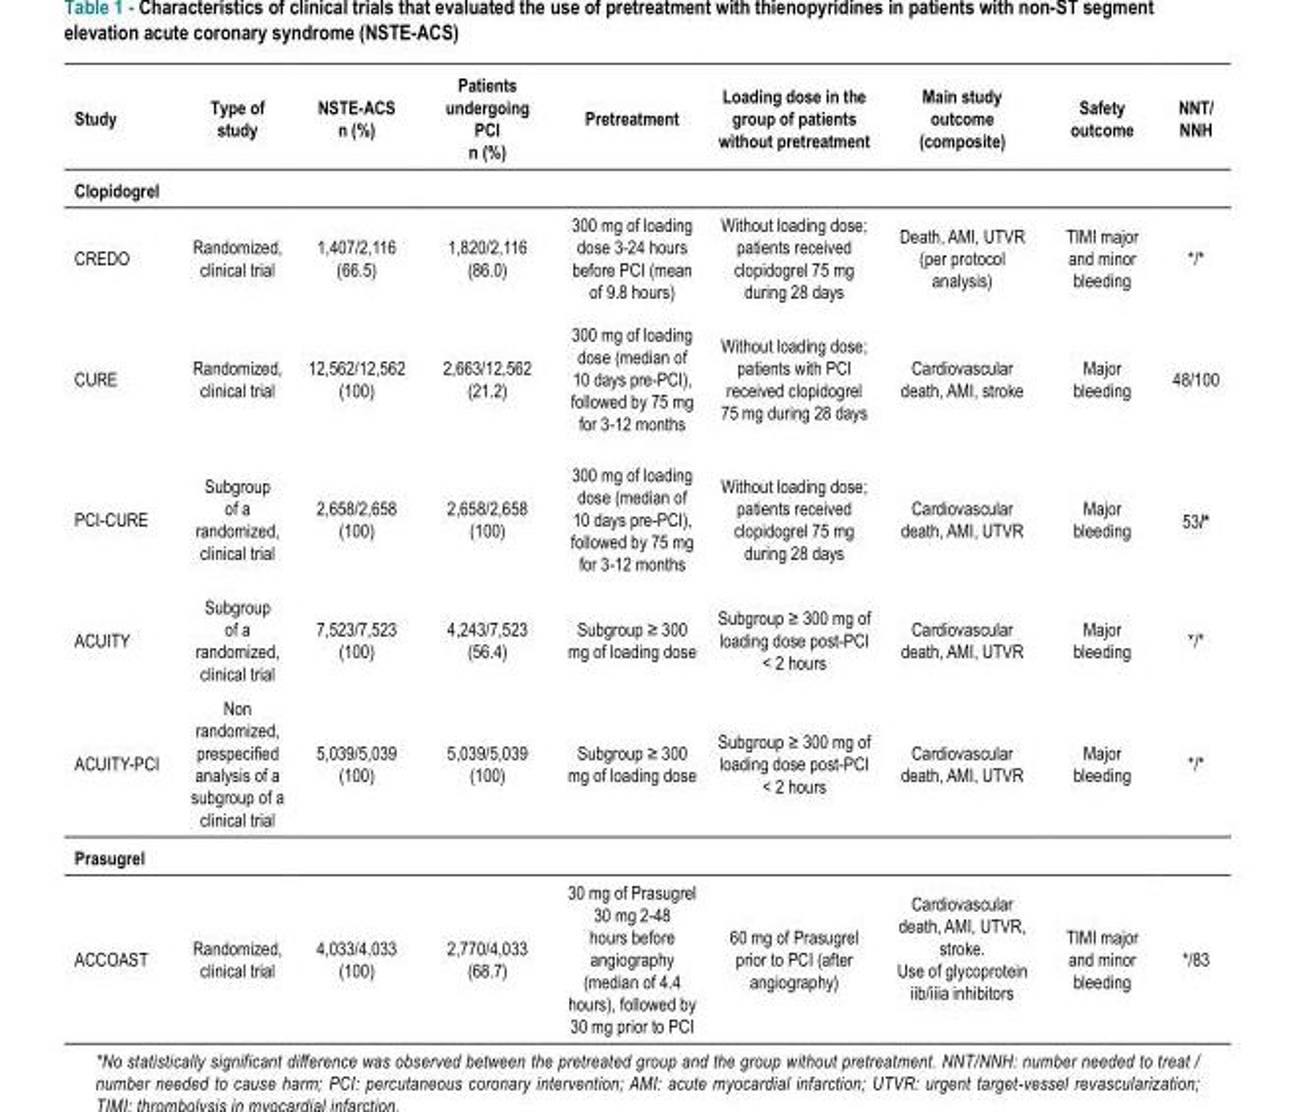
<table><thead><tr><td rowspan="2">Study Clopidogrel</td><td rowspan="2">Type of study</td><td rowspan="2">NSTE-ACS n (%)</td><td rowspan="2">Patients undergoing PCI n (%)</td><td rowspan="2">Pretreatment</td><td rowspan="2">Loading dose in the group of patients without pretreatment</td><td rowspan="2">Main study outcome (composite)</td><td rowspan="2">Safety outcome</td><td rowspan="2">NNT/ NNH</td></tr><tr></tr></thead><tbody><tr><td>CREDO</td><td>Randomized, clinical trial</td><td>1,407/2,116 (66.5)</td><td>1,820/2,116 (86.0)</td><td>300 mg of loading dose 3-24 hours before PCI (mean of 9.8 hours)</td><td>Without loading dose; patients received clopidogrel 75 mg during 28 days</td><td>Death, AMI, UTVR (per protocol analysis)</td><td>TIMI major and minor bleeding</td><td>*/*</td></tr><tr><td>CURE</td><td>Randomized, clinical trial</td><td>12,562/12,562 (100)</td><td>2,663/12,562 (21.2)</td><td>300 mg of loading dose (median of 10 days pre-PCI), followed by 75 mg for 3-12 months</td><td>Without loading dose; patients with PCI received clopidogrel 75 mg during 28 days</td><td>Cardiovascular death, AMI, stroke</td><td>Major bleeding</td><td>48/100</td></tr><tr><td>PCI-CURE</td><td>Subgroup of a randomized, clinical trial</td><td>2,658/2,658 (100)</td><td>2,658/2,658 (100)</td><td>300 mg of loading dose (median of 10 days pre-PCI), followed by 75 mg for 3-12 months</td><td>Without loading dose; patients received clopidogrel 75 mg during 28 days</td><td>Cardiovascular death, AMI, UTVR</td><td>Major bleeding</td><td>53/*</td></tr><tr><td>ACUITY</td><td>Subgroup of a randomized, clinical trial</td><td>7,523/7,523 (100)</td><td>4,243/7,523 (56.4)</td><td>Subgroup ≥ 300 mg of loading dose</td><td>Subgroup ≥ 300 mg of loading dose post-PCI &lt; 2 hours</td><td>Cardiovascular death, AMI, UTVR</td><td>Major bleeding</td><td>*/*</td></tr><tr><td>ACUITY-PCI</td><td>Non randomized, prespecified analysis of a subgroup of a clinical trial</td><td>5,039/5,039 (100)</td><td>5,039/5,039 (100)</td><td>Subgroup ≥ 300 mg of loading dose</td><td>Subgroup ≥ 300 mg of loading dose post-PCI &lt; 2 hours</td><td>Cardiovascular death, AMI, UTVR</td><td>Major bleeding</td><td>*/*</td></tr><tr><td colspan="9">Prasugrel</td></tr><tr><td>ACCOAST</td><td>Randomized, clinical trial</td><td>4,033/4,033 (100)</td><td>2,770/4,033 (68.7)</td><td>30 mg of Prasugrel 30 mg 2-48 hours before angiography (median of 4.4 hours), followed by 30 mg prior to PCI</td><td>60 mg of Prasugrel prior to PCI (after angiography)</td><td>Cardiovascular death, AMI, UTVR, stroke. Use of glycoprotein iib/iiia inhibitors</td><td>TIMI major and minor bleeding</td><td>*/83</td></tr></tbody></table>